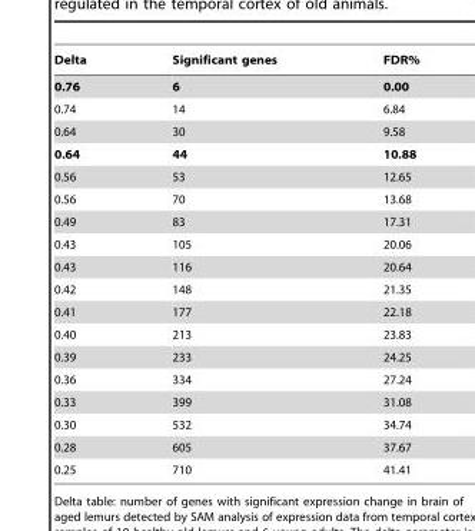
<table><thead><tr><td>Delta</td><td>Significant genes</td><td>FDR%</td></tr></thead><tbody><tr><td>0.76</td><td>6</td><td>0.00</td></tr><tr><td>0.74</td><td>14</td><td>6.84</td></tr><tr><td>0.64</td><td>30</td><td>9.58</td></tr><tr><td>0.64</td><td>44</td><td>10.88</td></tr><tr><td>0.56</td><td>53</td><td>12.65</td></tr><tr><td>0.56</td><td>70</td><td>13.68</td></tr><tr><td>0.49</td><td>83</td><td>17.31</td></tr><tr><td>0.43</td><td>105</td><td>20.06</td></tr><tr><td>0.43</td><td>116</td><td>20.64</td></tr><tr><td>0.42</td><td>148</td><td>21.35</td></tr><tr><td>0.41</td><td>177</td><td>22.18</td></tr><tr><td>0.40</td><td>213</td><td>23.83</td></tr><tr><td>0.39</td><td>233</td><td>24.25</td></tr><tr><td>0.36</td><td>334</td><td>27.24</td></tr><tr><td>0.33</td><td>399</td><td>31.08</td></tr><tr><td>0.30</td><td>532</td><td>34.74</td></tr><tr><td>0.28</td><td>605</td><td>37.67</td></tr><tr><td>0.25</td><td>710</td><td>41.41</td></tr></tbody></table>